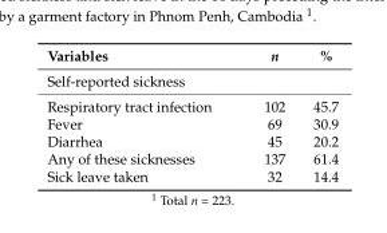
<table><thead><tr><td>Variables</td><td>n</td><td>%</td></tr></thead><tbody><tr><td colspan="3">Self-reported sickness</td></tr><tr><td>Respiratory tract infection</td><td>102</td><td>45.7</td></tr><tr><td>Fever</td><td>69</td><td>30.9</td></tr><tr><td>Diarrhea</td><td>45</td><td>20.2</td></tr><tr><td>Any of these sicknesses</td><td>137</td><td>61.4</td></tr><tr><td>Sick leave taken</td><td>32</td><td>14.4</td></tr></tbody></table>